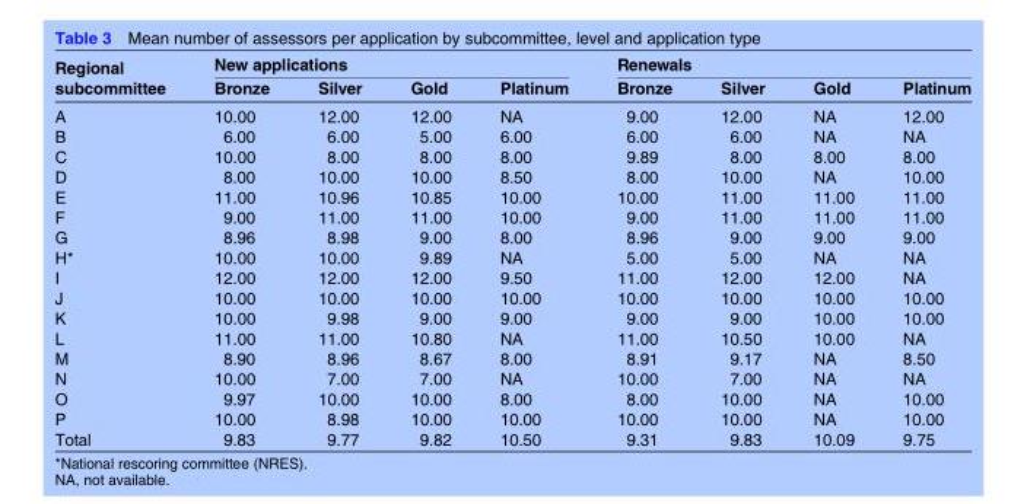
<table><thead><tr><td rowspan="2">Regional subcommittee</td><td colspan="4">New applications</td><td colspan="4">Renewals</td></tr><tr><td>Bronze</td><td>Silver</td><td>Gold</td><td>Platinum</td><td>Bronze</td><td>Silver</td><td>Gold</td><td>Platinum</td></tr></thead><tbody><tr><td>A</td><td>10.00</td><td>12.00</td><td>12.00</td><td>NA</td><td>9.00</td><td>12.00</td><td>NA</td><td>12.00</td></tr><tr><td>B</td><td>6.00</td><td>6.00</td><td>5.00</td><td>6.00</td><td>6.00</td><td>6.00</td><td>NA</td><td>NA</td></tr><tr><td>C</td><td>10.00</td><td>8.00</td><td>8.00</td><td>8.00</td><td>9.89</td><td>8.00</td><td>8.00</td><td>8.00</td></tr><tr><td>D</td><td>8.00</td><td>10.00</td><td>10.00</td><td>8.50</td><td>8.00</td><td>10.00</td><td>NA</td><td>10.00</td></tr><tr><td>E</td><td>11.00</td><td>10.96</td><td>10.85</td><td>10.00</td><td>10.00</td><td>11.00</td><td>11.00</td><td>11.00</td></tr><tr><td>F</td><td>9.00</td><td>11.00</td><td>11.00</td><td>10.00</td><td>9.00</td><td>11.00</td><td>11.00</td><td>11.00</td></tr><tr><td>G</td><td>8.96</td><td>8.98</td><td>9.00</td><td>8.00</td><td>8.96</td><td>9.00</td><td>9.00</td><td>9.00</td></tr><tr><td>H*</td><td>10.00</td><td>10.00</td><td>9.89</td><td>NA</td><td>5.00</td><td>5.00</td><td>NA</td><td>NA</td></tr><tr><td>I</td><td>12.00</td><td>12.00</td><td>12.00</td><td>9.50</td><td>11.00</td><td>12.00</td><td>12.00</td><td>NA</td></tr><tr><td>J</td><td>10.00</td><td>10.00</td><td>10.00</td><td>10.00</td><td>10.00</td><td>10.00</td><td>10.00</td><td>10.00</td></tr><tr><td>K</td><td>10.00</td><td>9.98</td><td>9.00</td><td>9.00</td><td>9.00</td><td>9.00</td><td>10.00</td><td>10.00</td></tr><tr><td>L</td><td>11.00</td><td>11.00</td><td>10.80</td><td>NA</td><td>11.00</td><td>10.50</td><td>10.00</td><td>NA</td></tr><tr><td>M</td><td>8.90</td><td>8.96</td><td>8.67</td><td>8.00</td><td>8.91</td><td>9.17</td><td>NA</td><td>8.50</td></tr><tr><td>N</td><td>10.00</td><td>7.00</td><td>7.00</td><td>NA</td><td>10.00</td><td>7.00</td><td>NA</td><td>NA</td></tr><tr><td>O</td><td>9.97</td><td>10.00</td><td>10.00</td><td>8.00</td><td>8.00</td><td>10.00</td><td>NA</td><td>10.00</td></tr><tr><td>P</td><td>10.00</td><td>8.98</td><td>10.00</td><td>10.00</td><td>10.00</td><td>10.00</td><td>NA</td><td>10.00</td></tr><tr><td>Total</td><td>9.83</td><td>9.77</td><td>9.82</td><td>10.50</td><td>9.31</td><td>9.83</td><td>10.09</td><td>9.75</td></tr></tbody></table>